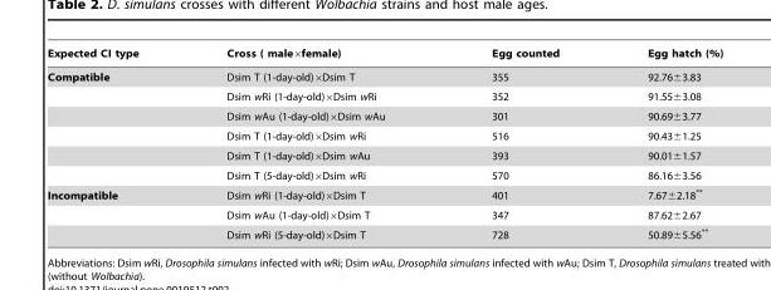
<table><thead><tr><td>Expected CI type</td><td>Cross ( male×female)</td><td>Egg counted</td><td>Egg hatch (%)</td></tr></thead><tbody><tr><td rowspan="6">Compatible</td><td>Dsim T (1-day-old)×Dsim T</td><td>355</td><td>92.76±3.83</td></tr><tr><td>Dsim wRi (1-day-old)×Dsim wRi</td><td>352</td><td>91.55±3.08</td></tr><tr><td>Dsim wAu (1-day-old)×Dsim wAu</td><td>301</td><td>90.69±3.77</td></tr><tr><td>Dsim T (1-day-old)×Dsim wRi</td><td>516</td><td>90.43±1.25</td></tr><tr><td>Dsim T (1-day-old)×Dsim wAu</td><td>393</td><td>90.01±1.57</td></tr><tr><td>Dsim T (5-day-old)×Dsim wRi</td><td>570</td><td>86.16±3.56</td></tr><tr><td rowspan="3">Incompatible</td><td>Dsim wRi (1-day-old)×Dsim T</td><td>401</td><td>7.67±2.18**</td></tr><tr><td>Dsim wAu (1-day-old)×Dsim T</td><td>347</td><td>87.62±2.67</td></tr><tr><td>Dsim wRi (5-day-old)×Dsim T</td><td>728</td><td>50.89±5.56**</td></tr></tbody></table>